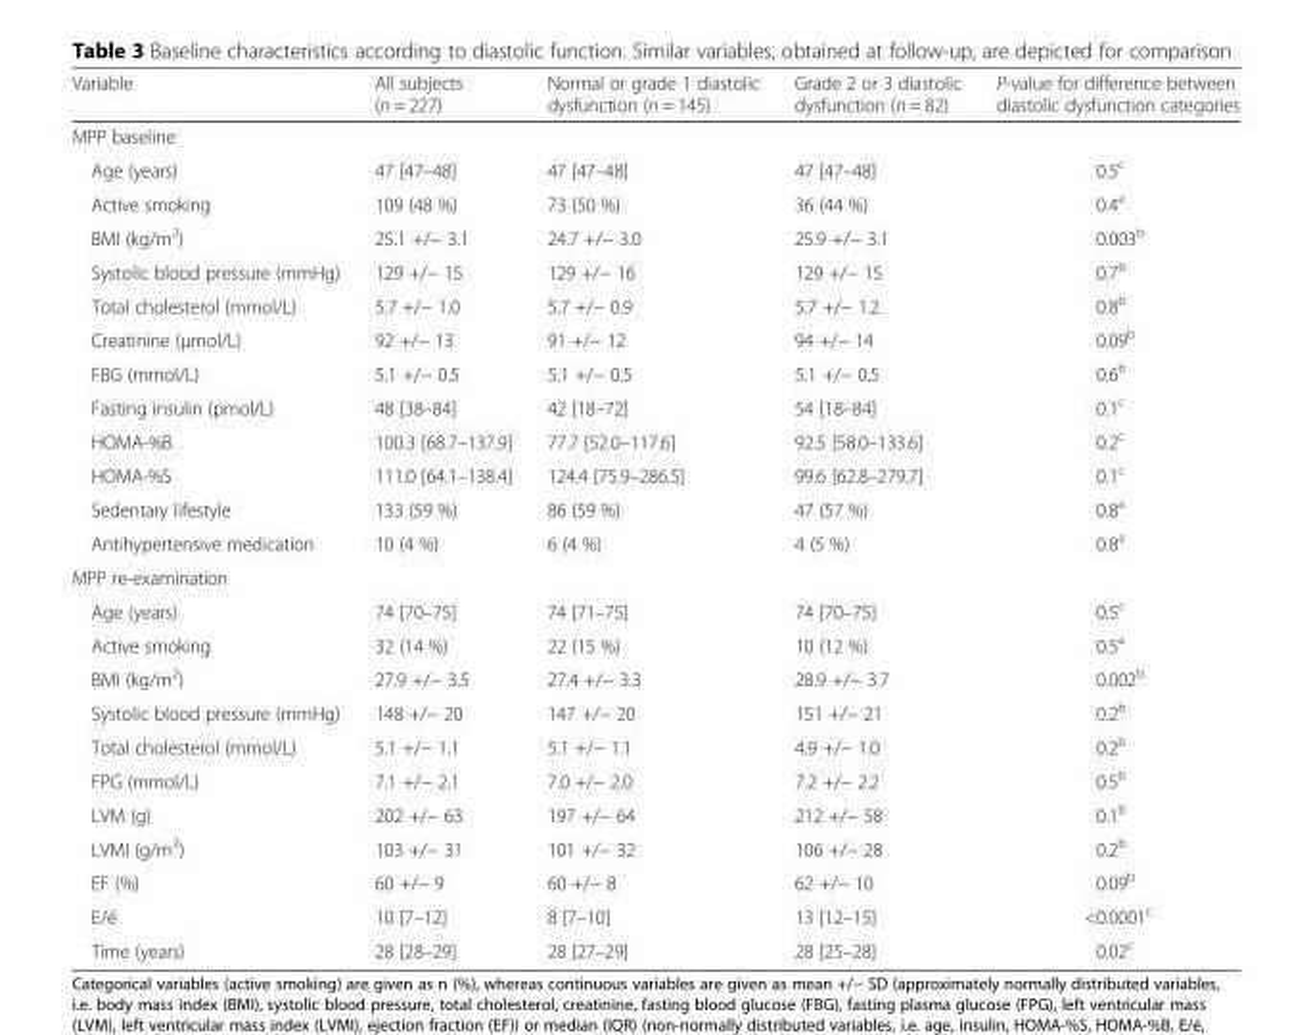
<table><thead><tr><td>Variable</td><td>All subjects (n = 227)</td><td>Normal or grade 1 diastolic dysfunction (n = 145)</td><td>Grade 2 or 3 diastolic dysfunction (n = 82)</td><td>P-value for difference between diastolic dysfunction categories</td></tr></thead><tbody><tr><td colspan="5">MPP baseline</td></tr><tr><td>Age (years)</td><td>47 [47–48]</td><td>47 [47–48]</td><td>47 [47–48]</td><td>0.5<sup>c</sup></td></tr><tr><td>Active smoking</td><td>109 (48 %)</td><td>73 (50 %)</td><td>36 (44 %)</td><td>0.4<sup>a</sup></td></tr><tr><td>BMI (kg/m<sup>2</sup>)</td><td>25.1 +/− 3.1</td><td>24.7 +/− 3.0</td><td>25.9 +/− 3.1</td><td>0.003<sup>b</sup></td></tr><tr><td>Systolic blood pressure (mmHg)</td><td>129 +/− 15</td><td>129 +/− 16</td><td>129 +/− 15</td><td>0.7<sup>b</sup></td></tr><tr><td>Total cholesterol (mmol/L)</td><td>5.7 +/− 1.0</td><td>5.7 +/− 0.9</td><td>5.7 +/− 1.2</td><td>0.8<sup>b</sup></td></tr><tr><td>Creatinine (μmol/L)</td><td>92 +/− 13</td><td>91 +/− 12</td><td>94 +/− 14</td><td>0.09<sup>b</sup></td></tr><tr><td>FBG (mmol/L)</td><td>5.1 +/− 0.5</td><td>5.1 +/− 0.5</td><td>5.1 +/− 0.5</td><td>0.6<sup>b</sup></td></tr><tr><td>Fasting insulin (pmol/L)</td><td>48 [38–84]</td><td>42 [18–72]</td><td>54 [18–84]</td><td>0.1<sup>c</sup></td></tr><tr><td>HOMA-%B</td><td>100.3 [68.7–137.9]</td><td>77.7 [52.0–117.6]</td><td>92.5 [58.0–133.6]</td><td>0.2<sup>c</sup></td></tr><tr><td>HOMA-%S</td><td>111.0 [64.1–138.4]</td><td>124.4 [75.9–286.5]</td><td>99.6 [62.8–279.7]</td><td>0.1<sup>c</sup></td></tr><tr><td>Sedentary lifestyle</td><td>133 (59 %)</td><td>86 (59 %)</td><td>47 (57 %)</td><td>0.8<sup>a</sup></td></tr><tr><td>Antihypertensive medication</td><td>10 (4 %)</td><td>6 (4 %)</td><td>4 (5 %)</td><td>0.8<sup>a</sup></td></tr><tr><td colspan="5">MPP re-examination</td></tr><tr><td>Age (years)</td><td>74 [70–75]</td><td>74 [71–75]</td><td>74 [70–75]</td><td>0.5<sup>c</sup></td></tr><tr><td>Active smoking</td><td>32 (14 %)</td><td>22 (15 %)</td><td>10 (12 %)</td><td>0.5<sup>a</sup></td></tr><tr><td>BMI (kg/m<sup>2</sup>)</td><td>27.9 +/− 3.5</td><td>27.4 +/− 3.3</td><td>28.9 +/− 3.7</td><td>0.002<sup>b</sup></td></tr><tr><td>Systolic blood pressure (mmHg)</td><td>148 +/− 20</td><td>147 +/− 20</td><td>151 +/− 21</td><td>0.2<sup>b</sup></td></tr><tr><td>Total cholesterol (mmol/L)</td><td>5.1 +/− 1.1</td><td>5.1 +/− 1.1</td><td>4.9 +/− 1.0</td><td>0.2<sup>b</sup></td></tr><tr><td>FPG (mmol/L)</td><td>7.1 +/− 2.1</td><td>7.0 +/− 2.0</td><td>7.2 +/− 2.2</td><td>0.5<sup>b</sup></td></tr><tr><td>LVM (g)</td><td>202 +/− 63</td><td>197 +/− 64</td><td>212 +/− 58</td><td>0.1<sup>b</sup></td></tr><tr><td>LVMI (g/m<sup>2</sup>)</td><td>103 +/− 31</td><td>101 +/− 32</td><td>106 +/− 28</td><td>0.2<sup>b</sup></td></tr><tr><td>EF (%)</td><td>60 +/− 9</td><td>60 +/− 8</td><td>62 +/− 10</td><td>0.09<sup>b</sup></td></tr><tr><td>E/é</td><td>10 [7–12]</td><td>8 [7–10]</td><td>13 [12–15]</td><td>&lt;0.0001<sup>c</sup></td></tr><tr><td>Time (years)</td><td>28 [28–29]</td><td>28 [27–29]</td><td>28 [25–28]</td><td>0.02<sup>c</sup></td></tr></tbody></table>